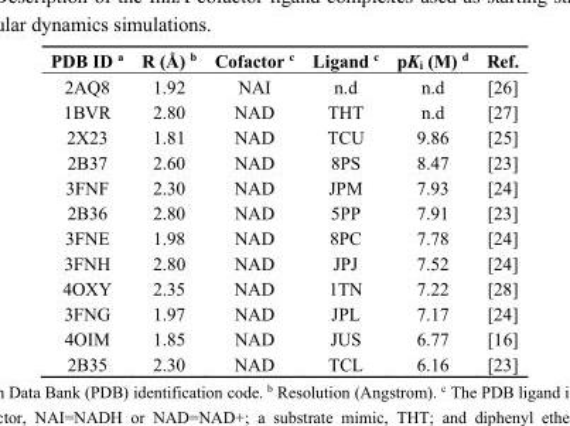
<table><thead><tr><td>PDB ID <sup>a</sup></td><td>R (Å) <sup>b</sup></td><td>Cofactor <sup>c</sup></td><td>Ligand <sup>c</sup></td><td>pK<sub>i</sub> (M) <sup>d</sup></td><td>Ref.</td></tr></thead><tbody><tr><td>2AQ8</td><td>1.92</td><td>NAI</td><td>n.d</td><td>n.d</td><td>[26]</td></tr><tr><td>1BVR</td><td>2.80</td><td>NAD</td><td>THT</td><td>n.d</td><td>[27]</td></tr><tr><td>2X23</td><td>1.81</td><td>NAD</td><td>TCU</td><td>9.86</td><td>[25]</td></tr><tr><td>2B37</td><td>2.60</td><td>NAD</td><td>8PS</td><td>8.47</td><td>[23]</td></tr><tr><td>3FNF</td><td>2.30</td><td>NAD</td><td>JPM</td><td>7.93</td><td>[24]</td></tr><tr><td>2B36</td><td>2.80</td><td>NAD</td><td>5PP</td><td>7.91</td><td>[23]</td></tr><tr><td>3FNE</td><td>1.98</td><td>NAD</td><td>8PC</td><td>7.78</td><td>[24]</td></tr><tr><td>3FNH</td><td>2.80</td><td>NAD</td><td>JPJ</td><td>7.52</td><td>[24]</td></tr><tr><td>4OXY</td><td>2.35</td><td>NAD</td><td>1TN</td><td>7.22</td><td>[28]</td></tr><tr><td>3FNG</td><td>1.97</td><td>NAD</td><td>JPL</td><td>7.17</td><td>[24]</td></tr><tr><td>4OIM</td><td>1.85</td><td>NAD</td><td>JUS</td><td>6.77</td><td>[16]</td></tr><tr><td>2B35</td><td>2.30</td><td>NAD</td><td>TCL</td><td>6.16</td><td>[23]</td></tr></tbody></table>